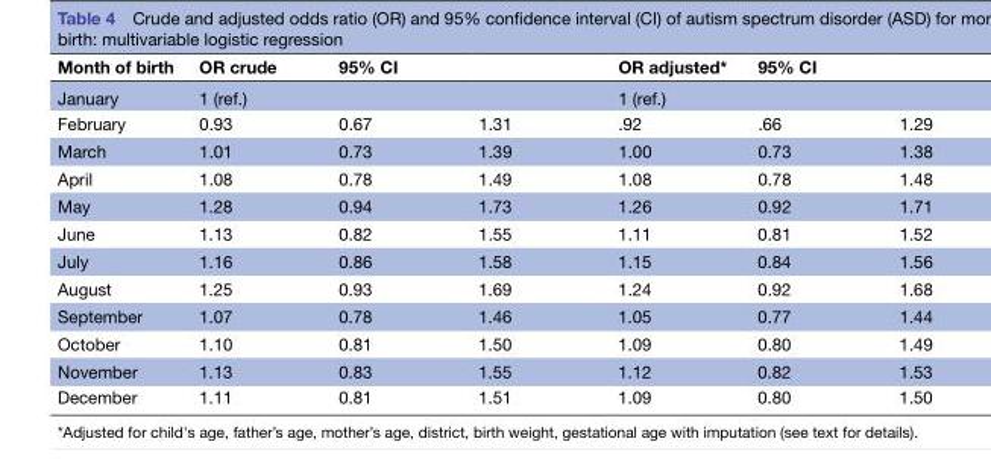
<table><thead><tr><td rowspan="3">Month of birth January February</td><td rowspan="3">OR crude 1 (ref.) 0.93</td><td colspan="2">95% CI</td><td rowspan="3">OR adjusted* 1 (ref.) .92</td><td rowspan="2" colspan="2">95% CI</td></tr><tr><td rowspan="2">0.67</td><td rowspan="2">1.31</td></tr><tr><td>.66</td><td>1.29</td></tr></thead><tbody><tr><td>March</td><td>1.01</td><td>0.73</td><td>1.39</td><td>1.00</td><td>0.73</td><td>1.38</td></tr><tr><td>April</td><td>1.08</td><td>0.78</td><td>1.49</td><td>1.08</td><td>0.78</td><td>1.48</td></tr><tr><td>May</td><td>1.28</td><td>0.94</td><td>1.73</td><td>1.26</td><td>0.92</td><td>1.71</td></tr><tr><td>June</td><td>1.13</td><td>0.82</td><td>1.55</td><td>1.11</td><td>0.81</td><td>1.52</td></tr><tr><td>July</td><td>1.16</td><td>0.86</td><td>1.58</td><td>1.15</td><td>0.84</td><td>1.56</td></tr><tr><td>August</td><td>1.25</td><td>0.93</td><td>1.69</td><td>1.24</td><td>0.92</td><td>1.68</td></tr><tr><td>September</td><td>1.07</td><td>0.78</td><td>1.46</td><td>1.05</td><td>0.77</td><td>1.44</td></tr><tr><td>October</td><td>1.10</td><td>0.81</td><td>1.50</td><td>1.09</td><td>0.80</td><td>1.49</td></tr><tr><td>November</td><td>1.13</td><td>0.83</td><td>1.55</td><td>1.12</td><td>0.82</td><td>1.53</td></tr><tr><td>December</td><td>1.11</td><td>0.81</td><td>1.51</td><td>1.09</td><td>0.80</td><td>1.50</td></tr></tbody></table>